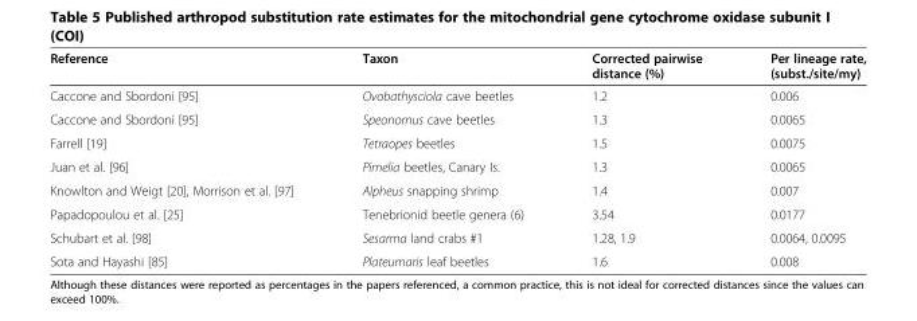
<table><thead><tr><td>Reference</td><td>Taxon</td><td>Corrected pairwise distance (%)</td><td>Per lineage rate, (subst./site/my)</td></tr></thead><tbody><tr><td>Caccone and Sbordoni [95]</td><td>Ovobathysciola cave beetles</td><td>1.2</td><td>0.006</td></tr><tr><td>Caccone and Sbordoni [95]</td><td>Speonornus cave beetles</td><td>1.3</td><td>0.0065</td></tr><tr><td>Farrell [19]</td><td>Tetraopes beetles</td><td>1.5</td><td>0.0075</td></tr><tr><td>Juan et al. [96]</td><td>Pimelia beetles, Canary Is.</td><td>1.3</td><td>0.0065</td></tr><tr><td>Knowlton and Weigt [20], Morrison et al. [97]</td><td>Alpheus snapping shrimp</td><td>1.4</td><td>0.007</td></tr><tr><td>Papadopoulou et al. [25]</td><td>Tenebrionid beetle genera (6)</td><td>3.54</td><td>0.0177</td></tr><tr><td>Schubart et al. [98]</td><td>Sesarma land crabs #1</td><td>1.28, 1.9</td><td>0.0064, 0.0095</td></tr><tr><td>Sota and Hayashi [85]</td><td>Plateumaris leaf beetles</td><td>1.6</td><td>0.008</td></tr></tbody></table>